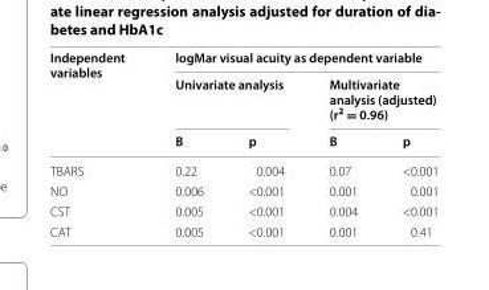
<table><thead><tr><td rowspan="3">Independent variables</td><td colspan="4">logMar visual acuity as dependent variable</td></tr><tr><td colspan="2">Univariate analysis</td><td colspan="2">Multivariate analysis (adjusted) (r<sup>2</sup> = 0.96)</td></tr><tr><td>B</td><td>p</td><td>B</td><td>p</td></tr></thead><tbody><tr><td>TBARS</td><td>0.22</td><td>0.004</td><td>0.07</td><td>&lt;0.001</td></tr><tr><td>NO</td><td>0.006</td><td>&lt;0.001</td><td>0.001</td><td>0.001</td></tr><tr><td>CST</td><td>0.005</td><td>&lt;0.001</td><td>0.004</td><td>&lt;0.001</td></tr><tr><td>CAT</td><td>0.005</td><td>&lt;0.001</td><td>0.001</td><td>0.41</td></tr></tbody></table>